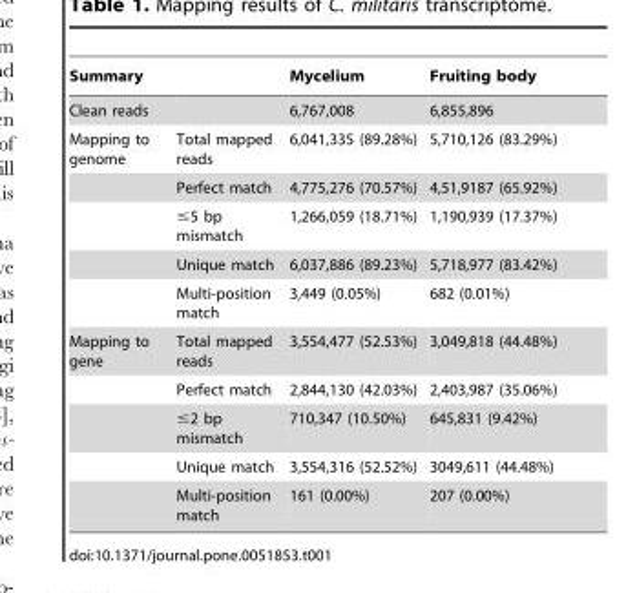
<table><thead><tr><td>Summary</td><td></td><td>Mycelium</td><td>Fruiting body</td></tr></thead><tbody><tr><td>Clean reads</td><td></td><td>6,767,008</td><td>6,855,896</td></tr><tr><td rowspan="5">Mapping to genome</td><td>Total mapped reads</td><td>6,041,335 (89.28%)</td><td>5,710,126 (83.29%)</td></tr><tr><td>Perfect match</td><td>4,775,276 (70.57%)</td><td>4,51,9187 (65.92%)</td></tr><tr><td>≤5 bp mismatch</td><td>1,266,059 (18.71%)</td><td>1,190,939 (17.37%)</td></tr><tr><td>Unique match</td><td>6,037,886 (89.23%)</td><td>5,718,977 (83.42%)</td></tr><tr><td>Multi-position match</td><td>3,449 (0.05%)</td><td>682 (0.01%)</td></tr><tr><td rowspan="5">Mapping to gene</td><td>Total mapped reads</td><td>3,554,477 (52.53%)</td><td>3,049,818 (44.48%)</td></tr><tr><td>Perfect match</td><td>2,844,130 (42.03%)</td><td>2,403,987 (35.06%)</td></tr><tr><td>≤2 bp mismatch</td><td>710,347 (10.50%)</td><td>645,831 (9.42%)</td></tr><tr><td>Unique match</td><td>3,554,316 (52.52%)</td><td>3049,611 (44.48%)</td></tr><tr><td>Multi-position match</td><td>161 (0.00%)</td><td>207 (0.00%)</td></tr></tbody></table>